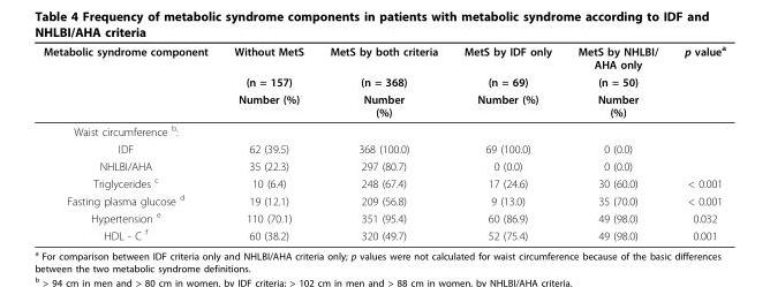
<table><thead><tr><td rowspan="3">Metabolic syndrome component</td><td rowspan="3">Without MetS (n = 157) Number (%)</td><td rowspan="3">MetS by both criteria (n = 368) Number (%)</td><td rowspan="3">MetS by IDF only (n = 69) Number (%)</td><td rowspan="3">MetS by NHLBI/ AHA only (n = 50) Number (%)</td><td rowspan="3">p value<sup>a</sup></td></tr><tr></tr><tr></tr></thead><tbody><tr><td colspan="6">Waist circumference <sup>b</sup>:</td></tr><tr><td>IDF</td><td>62 (39.5)</td><td>368 (100.0)</td><td>69 (100.0)</td><td>0 (0.0)</td><td></td></tr><tr><td>NHLBI/AHA</td><td>35 (22.3)</td><td>297 (80.7)</td><td>0 (0.0)</td><td>0 (0.0)</td><td></td></tr><tr><td>Triglycerides <sup>c</sup></td><td>10 (6.4)</td><td>248 (67.4)</td><td>17 (24.6)</td><td>30 (60.0)</td><td>&lt; 0.001</td></tr><tr><td>Fasting plasma glucose <sup>d</sup></td><td>19 (12.1)</td><td>209 (56.8)</td><td>9 (13.0)</td><td>35 (70.0)</td><td>&lt; 0.001</td></tr><tr><td>Hypertension <sup>e</sup></td><td>110 (70.1)</td><td>351 (95.4)</td><td>60 (86.9)</td><td>49 (98.0)</td><td>0.032</td></tr><tr><td>HDL - C <sup>f</sup></td><td>60 (38.2)</td><td>320 (49.7)</td><td>52 (75.4)</td><td>49 (98.0)</td><td>0.001</td></tr></tbody></table>